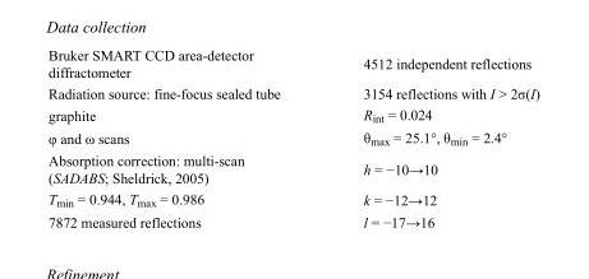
<table><tbody><tr><td>Bruker SMART CCD area-detector diffractometer</td><td>4512 independent reflections</td></tr><tr><td>Radiation source: fine-focus sealed tube</td><td>3154 reflections with I &gt; 2σ(I)</td></tr><tr><td>graphite</td><td>R<sub>int</sub> = 0.024</td></tr><tr><td>φ and ω scans</td><td>θ<sub>max</sub> = 25.1°, θ<sub>min</sub> = 2.4°</td></tr><tr><td>Absorption correction: multi-scan (SADABS; Sheldrick, 2005)</td><td>h = −10→10</td></tr><tr><td>T<sub>min</sub> = 0.944, T<sub>max</sub> = 0.986</td><td>k = −12→12</td></tr><tr><td>7872 measured reflections</td><td>l = −17→16</td></tr></tbody></table>